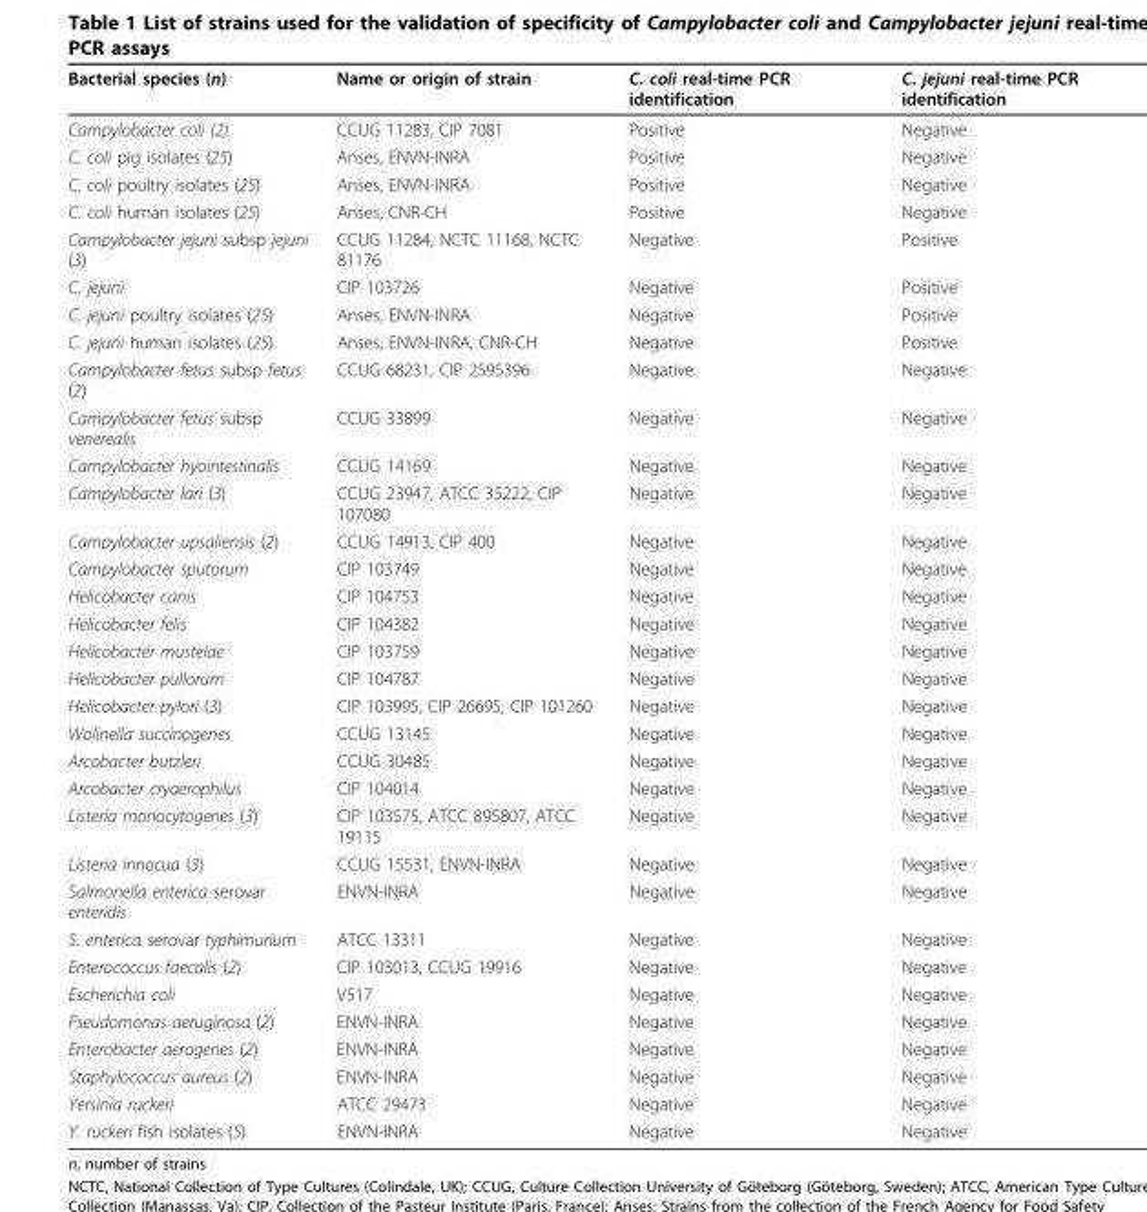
<table><thead><tr><td>Bacterial species (n)</td><td>Name or origin of strain</td><td>C. coli real-time PCR identification</td><td>C. jejuni real-time PCR identification</td></tr></thead><tbody><tr><td>Campylobacter coli (2)</td><td>CCUG 11283, CIP 7081</td><td>Positive</td><td>Negative</td></tr><tr><td>C. coli pig isolates (25)</td><td>Anses, ENVN-INRA</td><td>Positive</td><td>Negative</td></tr><tr><td>C. coli poultry isolates (25)</td><td>Anses, ENVN-INRA</td><td>Positive</td><td>Negative</td></tr><tr><td>C. coli human isolates (25)</td><td>Anses, CNR-CH</td><td>Positive</td><td>Negative</td></tr><tr><td>Campylobacter jejuni subsp jejuni (3)</td><td>CCUG 11284, NCTC 11168, NCTC 81176</td><td>Negative</td><td>Positive</td></tr><tr><td>C. jejuni</td><td>CIP 103726</td><td>Negative</td><td>Positive</td></tr><tr><td>C. jejuni poultry isolates (25)</td><td>Anses, ENVN-INRA</td><td>Negative</td><td>Positive</td></tr><tr><td>C. jejuni human isolates (25)</td><td>Anses, ENVN-INRA, CNR-CH</td><td>Negative</td><td>Positive</td></tr><tr><td>Campylobacter fetus subsp fetus (2)</td><td>CCUG 68231, CIP 2595396</td><td>Negative</td><td>Negative</td></tr><tr><td>Campylobacter fetus subsp venerealis</td><td>CCUG 33899</td><td>Negative</td><td>Negative</td></tr><tr><td>Campylobacter hyointestinalis</td><td>CCUG 14169</td><td>Negative</td><td>Negative</td></tr><tr><td>Campylobacter lari (3)</td><td>CCUG 23947, ATCC 35222, CIP 107080</td><td>Negative</td><td>Negative</td></tr><tr><td>Campylobacter upsaliensis (2)</td><td>CCUG 14913, CIP 400</td><td>Negative</td><td>Negative</td></tr><tr><td>Campylobacter sputorum</td><td>CIP 103749</td><td>Negative</td><td>Negative</td></tr><tr><td>Helicobacter canis</td><td>CIP 104753</td><td>Negative</td><td>Negative</td></tr><tr><td>Helicobacter felis</td><td>CIP 104382</td><td>Negative</td><td>Negative</td></tr><tr><td>Helicobacter mustelae</td><td>CIP 103759</td><td>Negative</td><td>Negative</td></tr><tr><td>Helicobacter pullorum</td><td>CIP 104787</td><td>Negative</td><td>Negative</td></tr><tr><td>Helicobacter pylori (3)</td><td>CIP 103995, CIP 26695, CIP 101260</td><td>Negative</td><td>Negative</td></tr><tr><td>Wolinella succinogenes</td><td>CCUG 13145</td><td>Negative</td><td>Negative</td></tr><tr><td>Arcobacter butzleri</td><td>CCUG 30485</td><td>Negative</td><td>Negative</td></tr><tr><td>Arcobacter cryaerophilus</td><td>CIP 104014</td><td>Negative</td><td>Negative</td></tr><tr><td>Listeria monocytogenes (3)</td><td>CIP 103575, ATCC 895807, ATCC 19115</td><td>Negative</td><td>Negative</td></tr><tr><td>Listeria innocua (3)</td><td>CCUG 15531, ENVN-INRA</td><td>Negative</td><td>Negative</td></tr><tr><td>Salmonella enterica serovar enteridis</td><td>ENVN-INRA</td><td>Negative</td><td>Negative</td></tr><tr><td>S. enterica serovar typhimurium</td><td>ATCC 13311</td><td>Negative</td><td>Negative</td></tr><tr><td>Enterococcus faecalis (2)</td><td>CIP 103013, CCUG 19916</td><td>Negative</td><td>Negative</td></tr><tr><td>Escherichia coli</td><td>V517</td><td>Negative</td><td>Negative</td></tr><tr><td>Pseudomonas aeruginosa (2)</td><td>ENVN-INRA</td><td>Negative</td><td>Negative</td></tr><tr><td>Enterobacter aerogenes (2)</td><td>ENVN-INRA</td><td>Negative</td><td>Negative</td></tr><tr><td>Staphylococcus aureus (2)</td><td>ENVN-INRA</td><td>Negative</td><td>Negative</td></tr><tr><td>Yersinia ruckeri</td><td>ATCC 29473</td><td>Negative</td><td>Negative</td></tr><tr><td>Y. ruckeri fish isolates (5)</td><td>ENVN-INRA</td><td>Negative</td><td>Negative</td></tr></tbody></table>